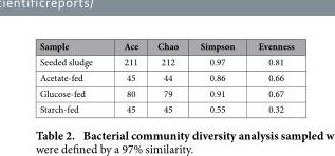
<table><thead><tr><td>Sample</td><td>Ace</td><td>Chao</td><td>Simpson</td><td>Evenness</td></tr></thead><tbody><tr><td>Seeded sludge</td><td>211</td><td>212</td><td>0.97</td><td>0.81</td></tr><tr><td>Acetate-fed</td><td>45</td><td>44</td><td>0.86</td><td>0.66</td></tr><tr><td>Glucose-fed</td><td>80</td><td>79</td><td>0.91</td><td>0.67</td></tr><tr><td>Starch-fed</td><td>45</td><td>45</td><td>0.55</td><td>0.32</td></tr></tbody></table>